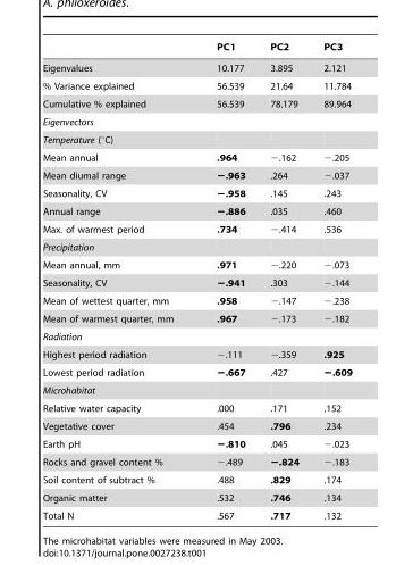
<table><thead><tr><td></td><td>PC1</td><td>PC2</td><td>PC3</td></tr></thead><tbody><tr><td>Eigenvalues</td><td>10.177</td><td>3.895</td><td>2.121</td></tr><tr><td>% Variance explained</td><td>56.539</td><td>21.64</td><td>11.784</td></tr><tr><td>Cumulative % explained</td><td>56.539</td><td>78.179</td><td>89.964</td></tr><tr><td colspan="4">Eigenvectors</td></tr><tr><td colspan="4">Temperature (°C)</td></tr><tr><td>Mean annual</td><td>.964</td><td>−.162</td><td>−.205</td></tr><tr><td>Mean diumal range</td><td>−.963</td><td>.264</td><td>−.037</td></tr><tr><td>Seasonality, CV</td><td>−.958</td><td>.145</td><td>.243</td></tr><tr><td>Annual range</td><td>−.886</td><td>.035</td><td>.460</td></tr><tr><td>Max. of warmest period</td><td>.734</td><td>−.414</td><td>.536</td></tr><tr><td colspan="4">Precipitation</td></tr><tr><td>Mean annual, mm</td><td>.971</td><td>−.220</td><td>−.073</td></tr><tr><td>Seasonality, CV</td><td>−.941</td><td>.303</td><td>−.144</td></tr><tr><td>Mean of wettest quarter, mm</td><td>.958</td><td>−.147</td><td>−.238</td></tr><tr><td>Mean of warmest quarter, mm</td><td>.967</td><td>−.173</td><td>−.182</td></tr><tr><td colspan="4">Radiation</td></tr><tr><td>Highest period radiation</td><td>−.111</td><td>−.359</td><td>.925</td></tr><tr><td>Lowest period radiation</td><td>−.667</td><td>.427</td><td>−.609</td></tr><tr><td colspan="4">Microhabitat</td></tr><tr><td>Relative water capacity</td><td>.000</td><td>.171</td><td>.152</td></tr><tr><td>Vegetative cover</td><td>.454</td><td>.796</td><td>.234</td></tr><tr><td>Earth pH</td><td>−.810</td><td>.045</td><td>−.023</td></tr><tr><td>Rocks and gravel content %</td><td>−.489</td><td>−.824</td><td>−.183</td></tr><tr><td>Soil content of subtract %</td><td>.488</td><td>.829</td><td>.174</td></tr><tr><td>Organic matter</td><td>.532</td><td>.746</td><td>.134</td></tr><tr><td>Total N</td><td>.567</td><td>.717</td><td>.132</td></tr></tbody></table>